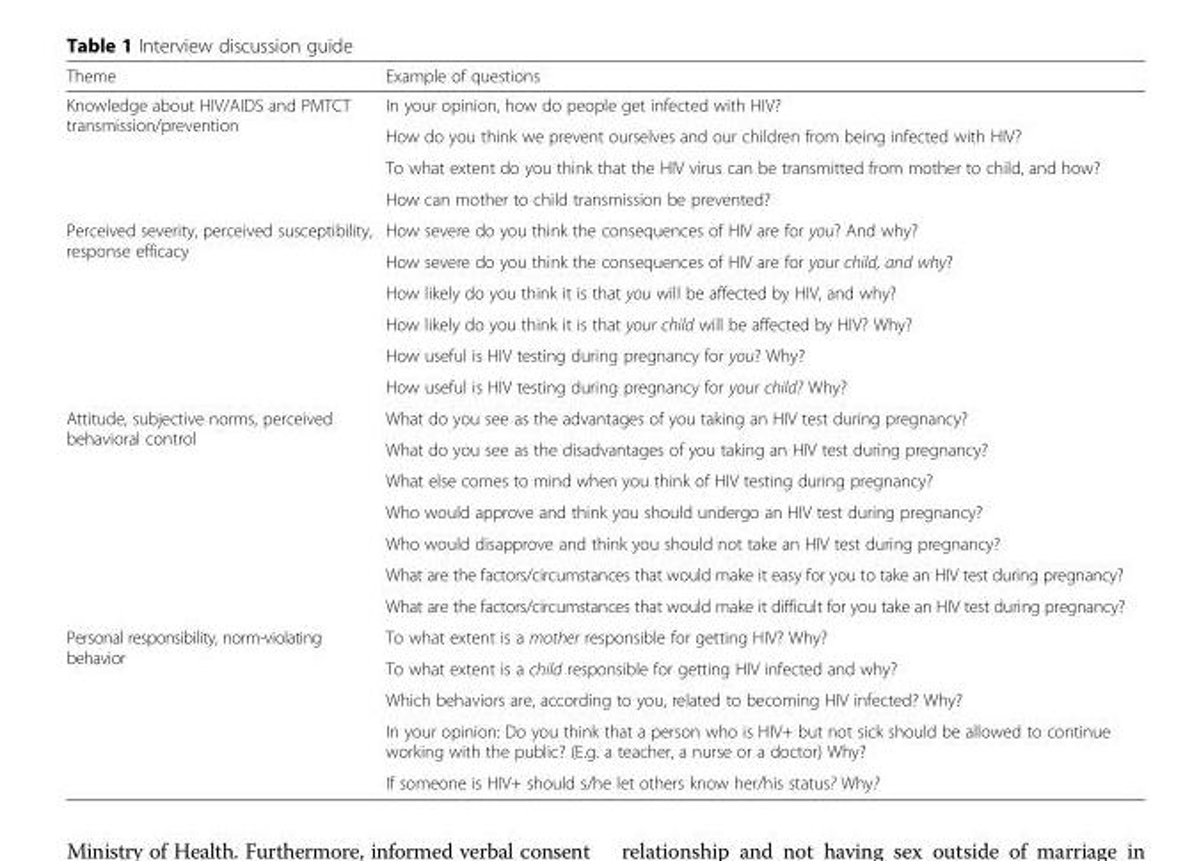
<table><thead><tr><td>Theme</td><td>Example of questions</td></tr></thead><tbody><tr><td rowspan="4">Knowledge about HIV/AIDS and PMTCT transmission/prevention</td><td>In your opinion, how do people get infected with HIV?</td></tr><tr><td>How do you think we prevent ourselves and our children from being infected with HIV?</td></tr><tr><td>To what extent do you think that the HIV virus can be transmitted from mother to child, and how?</td></tr><tr><td>How can mother to child transmission be prevented?</td></tr><tr><td rowspan="6">Perceived severity, perceived susceptibility, response efficacy</td><td>How severe do you think the consequences of HIV are for you? And why?</td></tr><tr><td>How severe do you think the consequences of HIV are for your child, and why?</td></tr><tr><td>How likely do you think it is that you will be affected by HIV, and why?</td></tr><tr><td>How likely do you think it is that your child will be affected by HIV? Why?</td></tr><tr><td>How useful is HIV testing during pregnancy for you? Why?</td></tr><tr><td>How useful is HIV testing during pregnancy for your child? Why?</td></tr><tr><td rowspan="7">Attitude, subjective norms, perceived behavioral control</td><td>What do you see as the advantages of you taking an HIV test during pregnancy?</td></tr><tr><td>What do you see as the disadvantages of you taking an HIV test during pregnancy?</td></tr><tr><td>What else comes to mind when you think of HIV testing during pregnancy?</td></tr><tr><td>Who would approve and think you should undergo an HIV test during pregnancy?</td></tr><tr><td>Who would disapprove and think you should not take an HIV test during pregnancy?</td></tr><tr><td>What are the factors/circumstances that would make it easy for you to take an HIV test during pregnancy?</td></tr><tr><td>What are the factors/circumstances that would make it difficult for you take an HIV test during pregnancy?</td></tr><tr><td rowspan="5">Personal responsibility, norm-violating behavior</td><td>To what extent is a mother responsible for getting HIV? Why?</td></tr><tr><td>To what extent is a child responsible for getting HIV infected and why?</td></tr><tr><td>Which behaviors are, according to you, related to becoming HIV infected? Why?</td></tr><tr><td>In your opinion: Do you think that a person who is HIV+ but not sick should be allowed to continue working with the public? (E.g. a teacher, a nurse or a doctor) Why?</td></tr><tr><td>If someone is HIV+ should s/he let others know her/his status? Why?</td></tr></tbody></table>